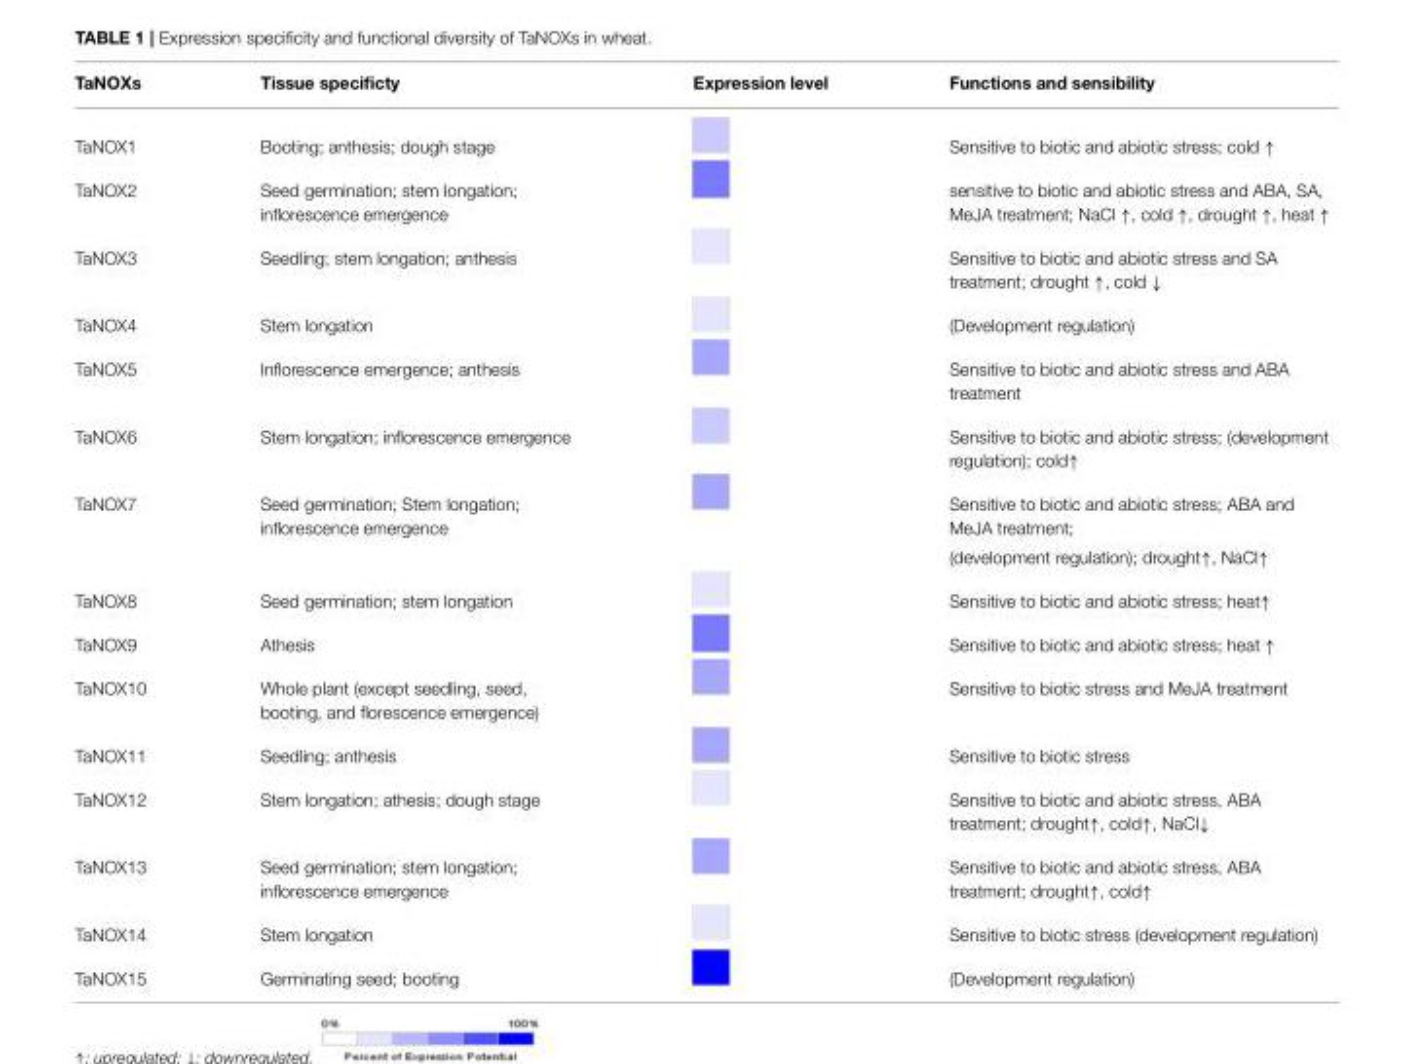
<table><thead><tr><td>TaNOXs</td><td>Tissue specificty</td><td>Expression level</td><td>Functions and sensibility</td></tr></thead><tbody><tr><td>TaNOX1</td><td>Booting; anthesis; dough stage</td><td></td><td>Sensitive to biotic and abiotic stress; cold ↑</td></tr><tr><td>TaNOX2</td><td>Seed germination; stem longation; inflorescence emergence</td><td></td><td>sensitive to biotic and abiotic stress and ABA, SA, MeJA treatment; NaCl ↑, cold ↑, drought ↑, heat ↑</td></tr><tr><td>TaNOX3</td><td>Seedling; stem longation; anthesis</td><td></td><td>Sensitive to biotic and abiotic stress and SA treatment; drought ↑, cold ↓</td></tr><tr><td>TaNOX4</td><td>Stem longation</td><td></td><td>(Development regulation)</td></tr><tr><td>TaNOX5</td><td>Inflorescence emergence; anthesis</td><td></td><td>Sensitive to biotic and abiotic stress and ABA treatment</td></tr><tr><td>TaNOX6</td><td>Stem longation; inflorescence emergence</td><td></td><td>Sensitive to biotic and abiotic stress; (development regulation); cold↑</td></tr><tr><td rowspan="2">TaNOX7</td><td>Seed germination; Stem longation; inflorescence emergence</td><td></td><td>Sensitive to biotic and abiotic stress; ABA and MeJA treatment;</td></tr><tr><td></td><td></td><td>(development regulation); drought↑, NaCl↑</td></tr><tr><td>TaNOX8</td><td>Seed germination; stem longation</td><td></td><td>Sensitive to biotic and abiotic stress; heat↑</td></tr><tr><td>TaNOX9</td><td>Athesis</td><td></td><td>Sensitive to biotic and abiotic stress; heat ↑</td></tr><tr><td>TaNOX10</td><td>Whole plant (except seedling, seed, booting, and florescence emergence)</td><td></td><td>Sensitive to biotic stress and MeJA treatment</td></tr><tr><td>TaNOX11</td><td>Seedling; anthesis</td><td></td><td>Sensitive to biotic stress</td></tr><tr><td>TaNOX12</td><td>Stem longation; athesis; dough stage</td><td></td><td>Sensitive to biotic and abiotic stress, ABA treatment; drought↑, cold↑, NaCl↓</td></tr><tr><td>TaNOX13</td><td>Seed germination; stem longation; inflorescence emergence</td><td></td><td>Sensitive to biotic and abiotic stress, ABA treatment; drought↑, cold↑</td></tr><tr><td>TaNOX14</td><td>Stem longation</td><td></td><td>Sensitive to biotic stress (development regulation)</td></tr><tr><td>TaNOX15</td><td>Germinating seed; booting</td><td></td><td>(Development regulation)</td></tr></tbody></table>